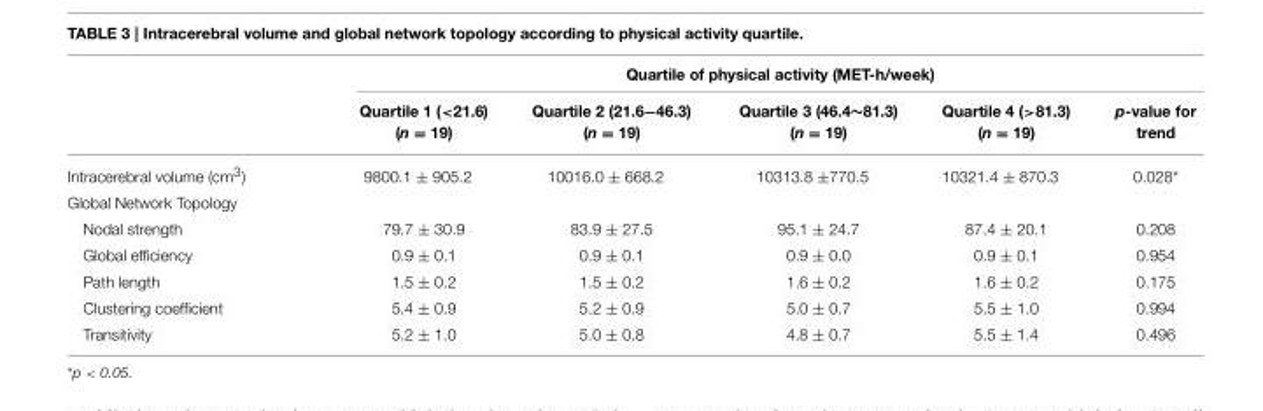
<table><thead><tr><td rowspan="2"></td><td colspan="5">Quartile of physical activity (MET-h/week)</td></tr><tr><td>Quartile 1 (&lt;21.6) (n = 19)</td><td>Quartile 2 (21.6−46.3) (n = 19)</td><td>Quartile 3 (46.4∼81.3) (n = 19)</td><td>Quartile 4 (&gt;81.3) (n = 19)</td><td>p-value for trend</td></tr></thead><tbody><tr><td>Intracerebral volume (cm<sup>3</sup>)</td><td>9800.1 ± 905.2</td><td>10016.0 ± 668.2</td><td>10313.8 ±770.5</td><td>10321.4 ± 870.3</td><td>0.028*</td></tr><tr><td colspan="6">Global Network Topology</td></tr><tr><td>Nodal strength</td><td>79.7 ± 30.9</td><td>83.9 ± 27.5</td><td>95.1 ± 24.7</td><td>87.4 ± 20.1</td><td>0.208</td></tr><tr><td>Global efficiency</td><td>0.9 ± 0.1</td><td>0.9 ± 0.1</td><td>0.9 ± 0.0</td><td>0.9 ± 0.1</td><td>0.954</td></tr><tr><td>Path length</td><td>1.5 ± 0.2</td><td>1.5 ± 0.2</td><td>1.6 ± 0.2</td><td>1.6 ± 0.2</td><td>0.175</td></tr><tr><td>Clustering coefficient</td><td>5.4 ± 0.9</td><td>5.2 ± 0.9</td><td>5.0 ± 0.7</td><td>5.5 ± 1.0</td><td>0.994</td></tr><tr><td>Transitivity</td><td>5.2 ± 1.0</td><td>5.0 ± 0.8</td><td>4.8 ± 0.7</td><td>5.5 ± 1.4</td><td>0.496</td></tr></tbody></table>